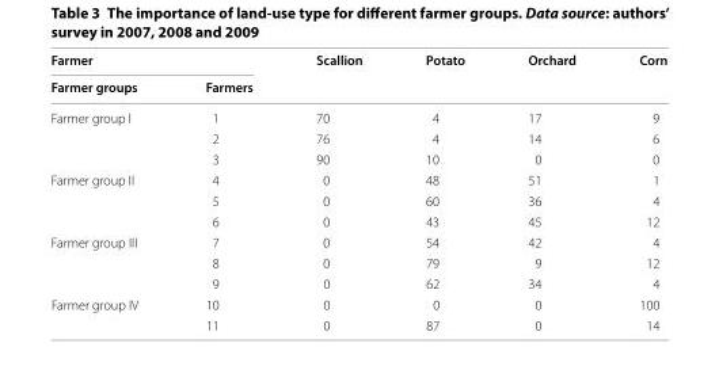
<table><thead><tr><td colspan="2">Farmer</td><td rowspan="2">Scallion</td><td rowspan="2">Potato</td><td rowspan="2">Orchard</td><td rowspan="2">Corn</td></tr><tr><td>Farmer groups</td><td>Farmers</td></tr></thead><tbody><tr><td rowspan="3">Farmer group I</td><td>1</td><td>70</td><td>4</td><td>17</td><td>9</td></tr><tr><td>2</td><td>76</td><td>4</td><td>14</td><td>6</td></tr><tr><td>3</td><td>90</td><td>10</td><td>0</td><td>0</td></tr><tr><td rowspan="3">Farmer group II</td><td>4</td><td>0</td><td>48</td><td>51</td><td>1</td></tr><tr><td>5</td><td>0</td><td>60</td><td>36</td><td>4</td></tr><tr><td>6</td><td>0</td><td>43</td><td>45</td><td>12</td></tr><tr><td rowspan="3">Farmer group III</td><td>7</td><td>0</td><td>54</td><td>42</td><td>4</td></tr><tr><td>8</td><td>0</td><td>79</td><td>9</td><td>12</td></tr><tr><td>9</td><td>0</td><td>62</td><td>34</td><td>4</td></tr><tr><td rowspan="2">Farmer group IV</td><td>10</td><td>0</td><td>0</td><td>0</td><td>100</td></tr><tr><td>11</td><td>0</td><td>87</td><td>0</td><td>14</td></tr></tbody></table>